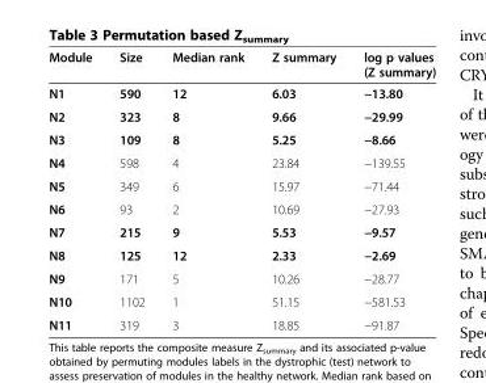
<table><thead><tr><td>Module</td><td>Size</td><td>Median rank</td><td>Z summary</td><td>log p values (Z summary)</td></tr></thead><tbody><tr><td>N1</td><td>590</td><td>12</td><td>6.03</td><td>−13.80</td></tr><tr><td>N2</td><td>323</td><td>8</td><td>9.66</td><td>−29.99</td></tr><tr><td>N3</td><td>109</td><td>8</td><td>5.25</td><td>−8.66</td></tr><tr><td>N4</td><td>598</td><td>4</td><td>23.84</td><td>−139.55</td></tr><tr><td>N5</td><td>349</td><td>6</td><td>15.97</td><td>−71.44</td></tr><tr><td>N6</td><td>93</td><td>2</td><td>10.69</td><td>−27.93</td></tr><tr><td>N7</td><td>215</td><td>9</td><td>5.53</td><td>−9.57</td></tr><tr><td>N8</td><td>125</td><td>12</td><td>2.33</td><td>−2.69</td></tr><tr><td>N9</td><td>171</td><td>5</td><td>10.26</td><td>−28.77</td></tr><tr><td>N10</td><td>1102</td><td>1</td><td>51.15</td><td>−581.53</td></tr><tr><td>N11</td><td>319</td><td>3</td><td>18.85</td><td>−91.87</td></tr></tbody></table>